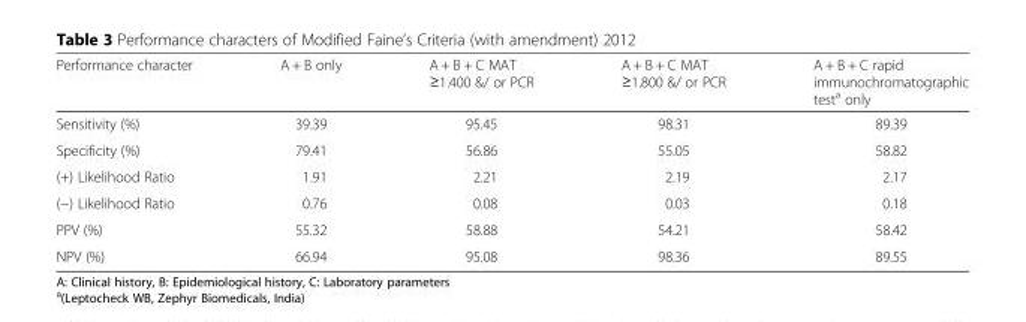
<table><thead><tr><td>Performance character</td><td>A + B only</td><td>A + B + C MAT ≥1.400 &amp;/ or PCR</td><td>A + B + C MAT ≥1.800 &amp;/ or PCR</td><td>A + B + C rapid immunochromatographic test<sup>a</sup> only</td></tr></thead><tbody><tr><td>Sensitivity (%)</td><td>39.39</td><td>95.45</td><td>98.31</td><td>89.39</td></tr><tr><td>Specificity (%)</td><td>79.41</td><td>56.86</td><td>55.05</td><td>58.82</td></tr><tr><td>(+) Likelihood Ratio</td><td>1.91</td><td>2.21</td><td>2.19</td><td>2.17</td></tr><tr><td>(−) Likelihood Ratio</td><td>0.76</td><td>0.08</td><td>0.03</td><td>0.18</td></tr><tr><td>PPV (%)</td><td>55.32</td><td>58.88</td><td>54.21</td><td>58.42</td></tr><tr><td>NPV (%)</td><td>66.94</td><td>95.08</td><td>98.36</td><td>89.55</td></tr></tbody></table>